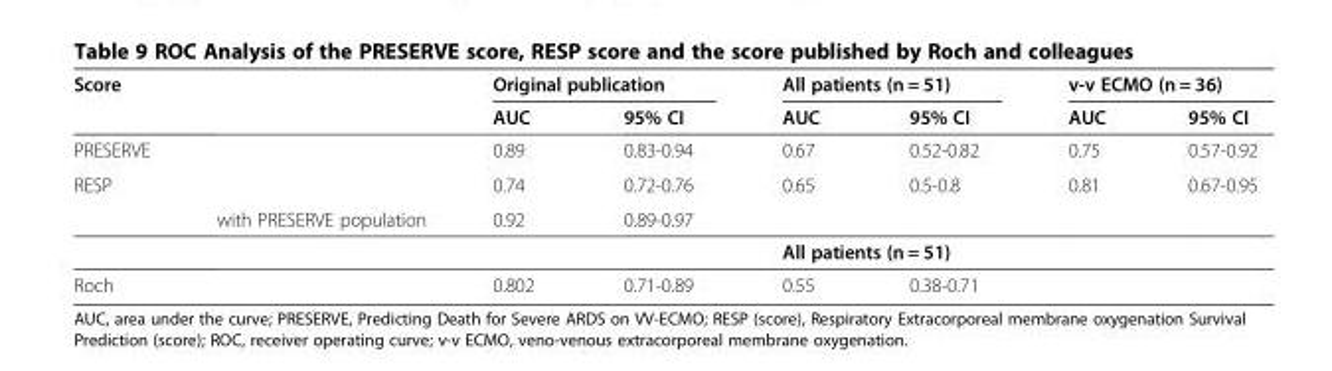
<table><thead><tr><td rowspan="2">Score</td><td rowspan="2"></td><td colspan="2">Original publication</td><td colspan="2">All patients (n = 51)</td><td colspan="2">v-v ECMO (n = 36)</td></tr><tr><td>AUC</td><td>95% CI</td><td>AUC</td><td>95% CI</td><td>AUC</td><td>95% CI</td></tr></thead><tbody><tr><td>PRESERVE</td><td></td><td>0.89</td><td>0.83-0.94</td><td>0.67</td><td>0.52-0.82</td><td>0.75</td><td>0.57-0.92</td></tr><tr><td rowspan="3">RESP</td><td></td><td>0.74</td><td>0.72-0.76</td><td>0.65</td><td>0.5-0.8</td><td>0.81</td><td>0.67-0.95</td></tr><tr><td>with PRESERVE population</td><td>0.92</td><td>0.89-0.97</td><td></td><td></td><td></td><td></td></tr><tr><td></td><td></td><td></td><td colspan="2">All patients (n = 51)</td><td></td><td></td></tr><tr><td>Roch</td><td></td><td>0.802</td><td>0.71-0.89</td><td>0.55</td><td>0.38-0.71</td><td></td><td></td></tr></tbody></table>